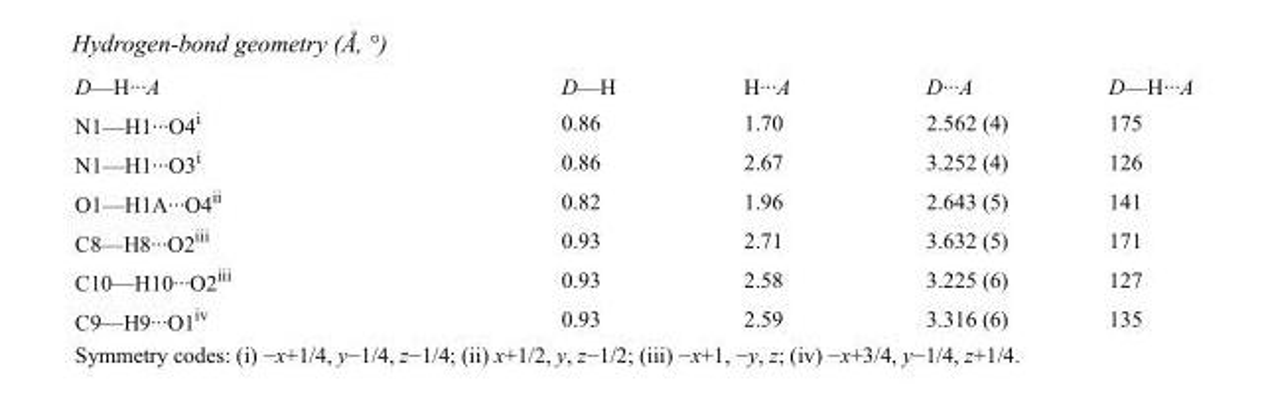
<table><tbody><tr><td>D—H···A</td><td>D—H</td><td>H···A</td><td>D···A</td><td>D—H···A</td></tr><tr><td>N1—H1···O4<sup>i</sup></td><td>0.86</td><td>1.70</td><td>2.562 (4)</td><td>175</td></tr><tr><td>N1—H1···O3<sup>i</sup></td><td>0.86</td><td>2.67</td><td>3.252 (4)</td><td>126</td></tr><tr><td>O1—H1A···O4<sup>ii</sup></td><td>0.82</td><td>1.96</td><td>2.643 (5)</td><td>141</td></tr><tr><td>C8—H8···O2<sup>iii</sup></td><td>0.93</td><td>2.71</td><td>3.632 (5)</td><td>171</td></tr><tr><td>C10—H10···O2<sup>iii</sup></td><td>0.93</td><td>2.58</td><td>3.225 (6)</td><td>127</td></tr><tr><td>C9—H9···O1<sup>iv</sup></td><td>0.93</td><td>2.59</td><td>3.316 (6)</td><td>135</td></tr></tbody></table>